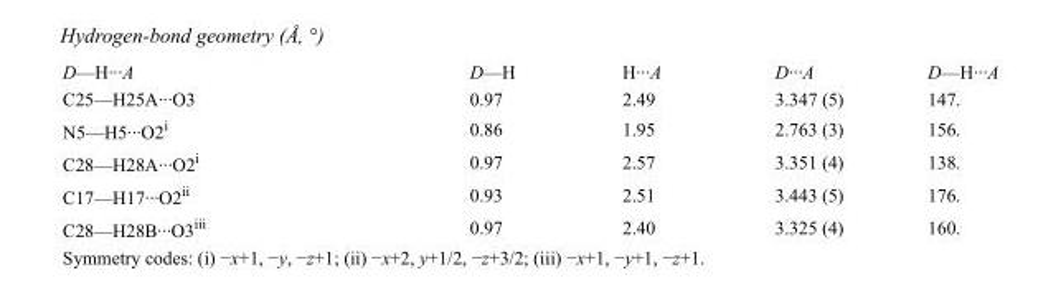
<table><tbody><tr><td>D—H···A</td><td>D—H</td><td>H···A</td><td>D···A</td><td>D—H···A</td></tr><tr><td>C25—H25A···O3</td><td>0.97</td><td>2.49</td><td>3.347 (5)</td><td>147.</td></tr><tr><td>N5—H5···O2<sup>i</sup></td><td>0.86</td><td>1.95</td><td>2.763 (3)</td><td>156.</td></tr><tr><td>C28—H28A···O2<sup>i</sup></td><td>0.97</td><td>2.57</td><td>3.351 (4)</td><td>138.</td></tr><tr><td>C17—H17···O2<sup>ii</sup></td><td>0.93</td><td>2.51</td><td>3.443 (5)</td><td>176.</td></tr><tr><td>C28—H28B···O3<sup>iii</sup></td><td>0.97</td><td>2.40</td><td>3.325 (4)</td><td>160.</td></tr></tbody></table>